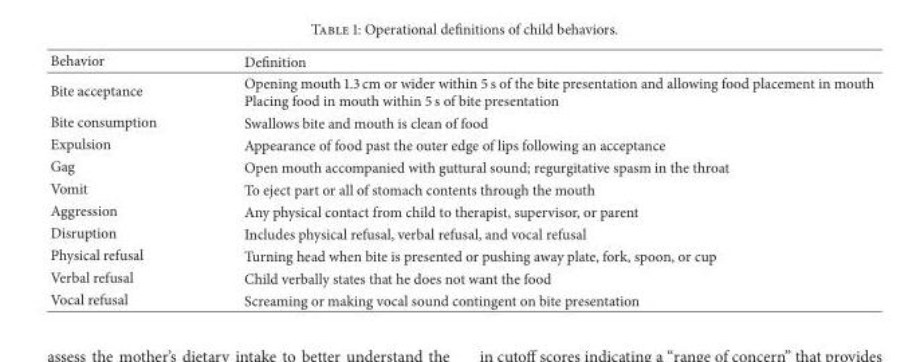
<table><thead><tr><td>Behavior</td><td>Definition</td></tr></thead><tbody><tr><td>Bite acceptance</td><td>Opening mouth 1.3 cm or wider within 5 s of the bite presentation and allowing food placement in mouth Placing food in mouth within 5 s of bite presentation</td></tr><tr><td>Bite consumption</td><td>Swallows bite and mouth is clean of food</td></tr><tr><td>Expulsion</td><td>Appearance of food past the outer edge of lips following an acceptance</td></tr><tr><td>Gag</td><td>Open mouth accompanied with guttural sound; regurgitative spasm in the throat</td></tr><tr><td>Vomit</td><td>To eject part or all of stomach contents through the mouth</td></tr><tr><td>Aggression</td><td>Any physical contact from child to therapist, supervisor, or parent</td></tr><tr><td>Disruption</td><td>Includes physical refusal, verbal refusal, and vocal refusal</td></tr><tr><td>Physical refusal</td><td>Turning head when bite is presented or pushing away plate, fork, spoon, or cup</td></tr><tr><td>Verbal refusal</td><td>Child verbally states that he does not want the food</td></tr><tr><td>Vocal refusal</td><td>Screaming or making vocal sound contingent on bite presentation</td></tr></tbody></table>